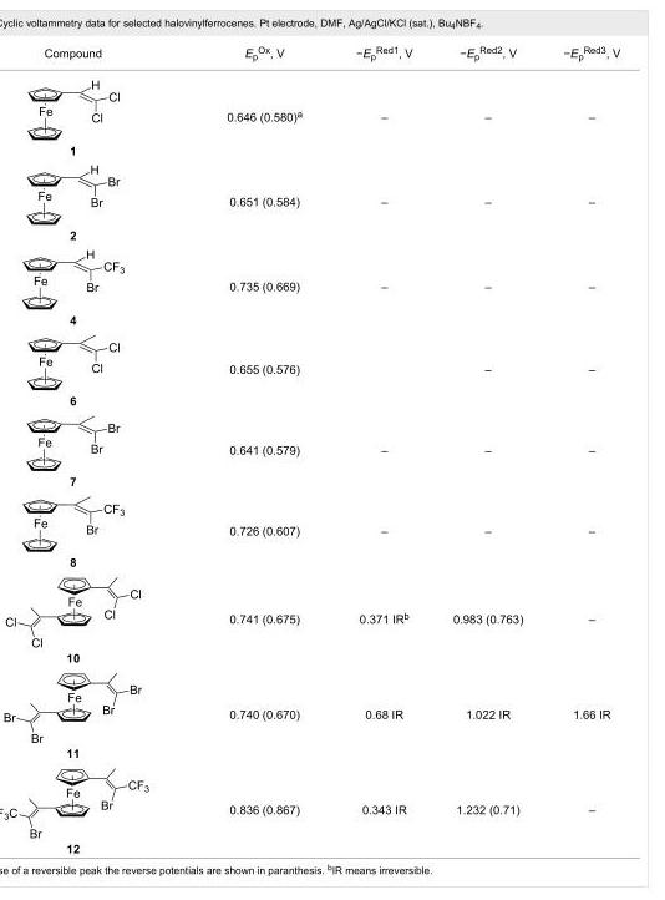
<table><tbody><tr><td>Compound</td><td>E<sub>p</sub><sup>Ox</sup>, V</td><td>−E<sub>p</sub><sup>Red1</sup>, V</td><td>−E<sub>p</sub><sup>Red2</sup>, V</td><td>−E<sub>p</sub><sup>Red3</sup>, V</td></tr><tr><td>1</td><td>0.646 (0.580)<sup>a</sup></td><td>–</td><td>–</td><td>–</td></tr><tr><td>2</td><td>0.651 (0.584)</td><td>–</td><td>–</td><td>–</td></tr><tr><td>4</td><td>0.735 (0.669)</td><td>–</td><td>–</td><td>–</td></tr><tr><td>6</td><td>0.655 (0.576)</td><td></td><td>–</td><td>–</td></tr><tr><td>7</td><td>0.641 (0.579)</td><td>–</td><td>–</td><td>–</td></tr><tr><td>8</td><td>0.726 (0.607)</td><td>–</td><td>–</td><td>–</td></tr><tr><td>10</td><td>0.741 (0.675)</td><td>0.371 IR<sup>b</sup></td><td>0.983 (0.763)</td><td>–</td></tr><tr><td>11</td><td>0.740 (0.670)</td><td>0.68 IR</td><td>1.022 IR</td><td>1.66 IR</td></tr><tr><td>12</td><td>0.836 (0.867)</td><td>0.343 IR</td><td>1.232 (0.71)</td><td>–</td></tr></tbody></table>